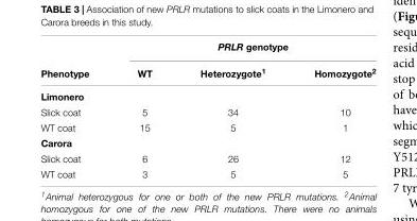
<table><thead><tr><td rowspan="2">Phenotype</td><td colspan="3">PRLR genotype</td></tr><tr><td>WT</td><td>Heterozygote<sup>1</sup></td><td>Homozygote<sup>2</sup></td></tr></thead><tbody><tr><td colspan="4">Limonero</td></tr><tr><td>Slick coat</td><td>5</td><td>34</td><td>10</td></tr><tr><td>WT coat</td><td>15</td><td>5</td><td>1</td></tr><tr><td colspan="4">Carora</td></tr><tr><td>Slick coat</td><td>6</td><td>26</td><td>12</td></tr><tr><td>WT coat</td><td>3</td><td>5</td><td>5</td></tr></tbody></table>